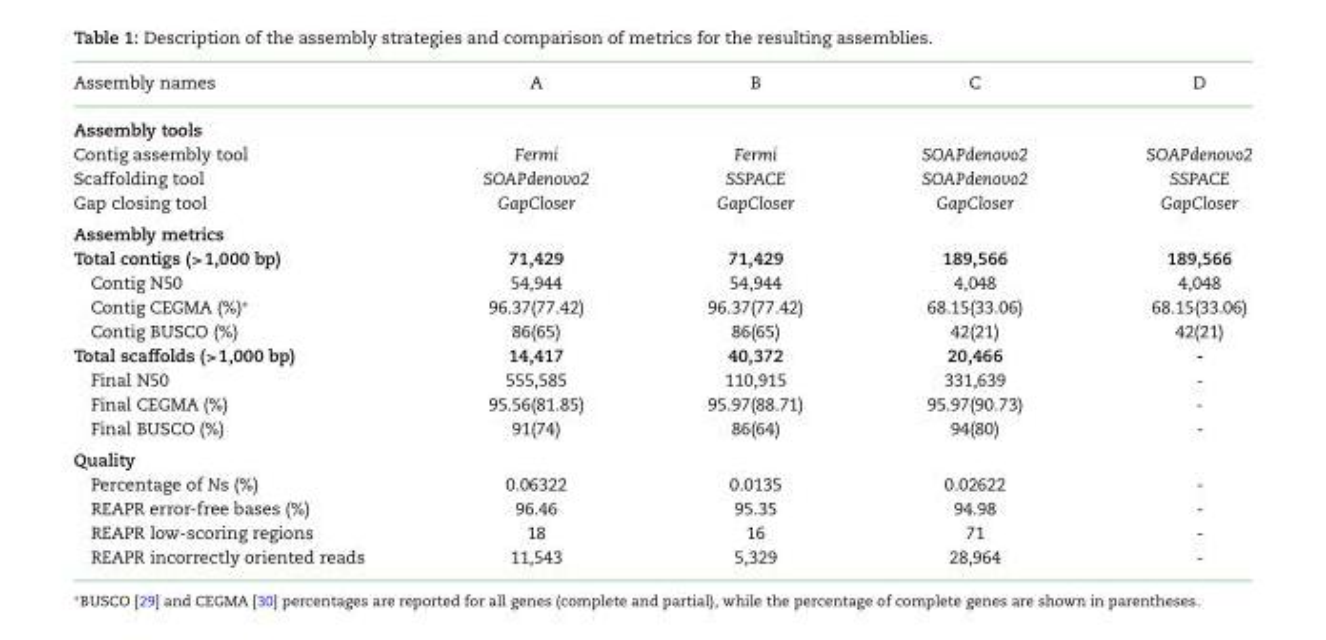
<table><thead><tr><td>Assembly names</td><td>A</td><td>B</td><td>C</td><td>D</td></tr></thead><tbody><tr><td colspan="5">Assembly tools</td></tr><tr><td>Contig assembly tool</td><td>Fermi</td><td>Fermi</td><td>SOAPdenovo2</td><td>SOAPdenovo2</td></tr><tr><td>Scaffolding tool</td><td>SOAPdenovo2</td><td>SSPACE</td><td>SOAPdenovo2</td><td>SSPACE</td></tr><tr><td>Gap closing tool</td><td>GapCloser</td><td>GapCloser</td><td>GapCloser</td><td>GapCloser</td></tr><tr><td colspan="5">Assembly metrics</td></tr><tr><td>Total contigs (&gt;1,000 bp)</td><td>71,429</td><td>71,429</td><td>189,566</td><td>189,566</td></tr><tr><td>Contig N50</td><td>54,944</td><td>54,944</td><td>4,048</td><td>4,048</td></tr><tr><td>Contig CEGMA (%)∗</td><td>96.37(77.42)</td><td>96.37(77.42)</td><td>68.15(33.06)</td><td>68.15(33.06)</td></tr><tr><td>Contig BUSCO (%)</td><td>86(65)</td><td>86(65)</td><td>42(21)</td><td>42(21)</td></tr><tr><td>Total scaffolds (&gt;1,000 bp)</td><td>14,417</td><td>40,372</td><td>20,466</td><td>-</td></tr><tr><td>Final N50</td><td>555,585</td><td>110,915</td><td>331,639</td><td>-</td></tr><tr><td>Final CEGMA (%)</td><td>95.56(81.85)</td><td>95.97(88.71)</td><td>95.97(90.73)</td><td>-</td></tr><tr><td>Final BUSCO (%)</td><td>91(74)</td><td>86(64)</td><td>94(80)</td><td>-</td></tr><tr><td colspan="5">Quality</td></tr><tr><td>Percentage of Ns (%)</td><td>0.06322</td><td>0.0135</td><td>0.02622</td><td>-</td></tr><tr><td>REAPR error-free bases (%)</td><td>96.46</td><td>95.35</td><td>94.98</td><td>-</td></tr><tr><td>REAPR low-scoring regions</td><td>18</td><td>16</td><td>71</td><td>-</td></tr><tr><td>REAPR incorrectly oriented reads</td><td>11,543</td><td>5,329</td><td>28,964</td><td>-</td></tr></tbody></table>